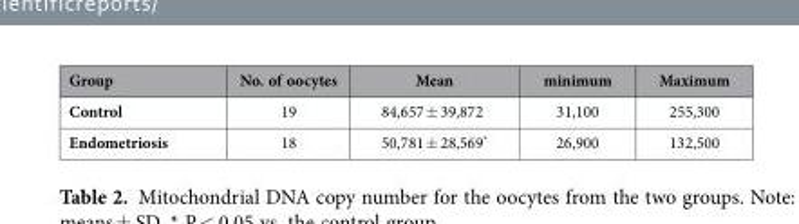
<table><thead><tr><td>Group</td><td>No. of oocytes</td><td>Mean</td><td>minimum</td><td>Maximum</td></tr></thead><tbody><tr><td>Control</td><td>19</td><td>84,657 ± 39,872</td><td>31,100</td><td>255,300</td></tr><tr><td>Endometriosis</td><td>18</td><td>50,781 ± 28,569*</td><td>26,900</td><td>132,500</td></tr></tbody></table>